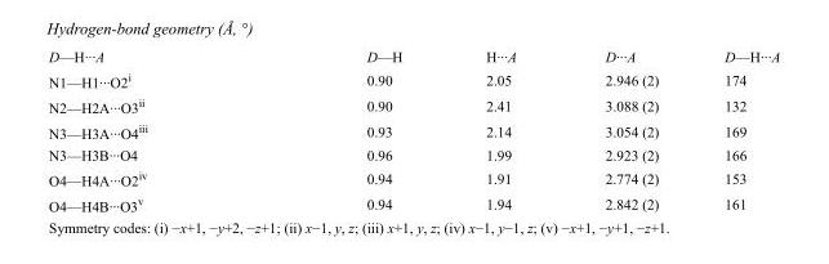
<table><tbody><tr><td>D—H···A</td><td>D—H</td><td>H···A</td><td>D···A</td><td>D—H···A</td></tr><tr><td>N1—H1···O2<sup>i</sup></td><td>0.90</td><td>2.05</td><td>2.946 (2)</td><td>174</td></tr><tr><td>N2—H2A···O3<sup>ii</sup></td><td>0.90</td><td>2.41</td><td>3.088 (2)</td><td>132</td></tr><tr><td>N3—H3A···O4<sup>iii</sup></td><td>0.93</td><td>2.14</td><td>3.054 (2)</td><td>169</td></tr><tr><td>N3—H3B···O4</td><td>0.96</td><td>1.99</td><td>2.923 (2)</td><td>166</td></tr><tr><td>O4—H4A···O2<sup>iv</sup></td><td>0.94</td><td>1.91</td><td>2.774 (2)</td><td>153</td></tr><tr><td>O4—H4B···O3<sup>v</sup></td><td>0.94</td><td>1.94</td><td>2.842 (2)</td><td>161</td></tr></tbody></table>